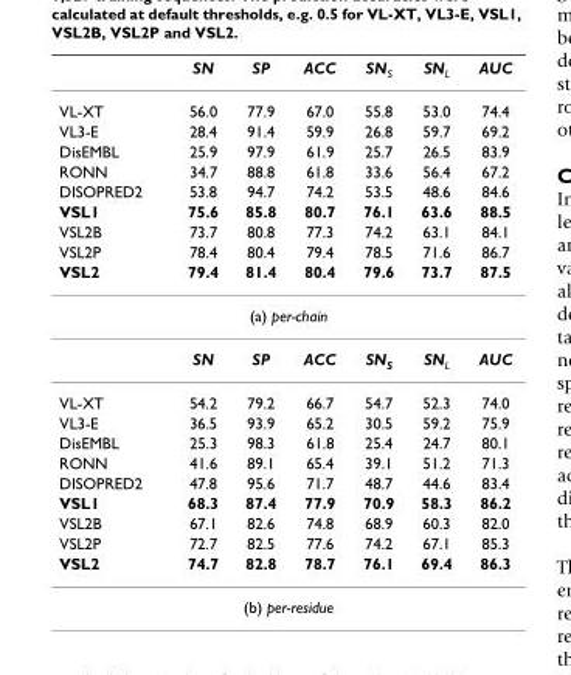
<table><thead><tr><td></td><td>SN</td><td>SP</td><td>ACC</td><td>SNS</td><td>SNL</td><td>AUC</td></tr></thead><tbody><tr><td>VL-XT</td><td>56.0</td><td>77.9</td><td>67.0</td><td>55.8</td><td>53.0</td><td>74.4</td></tr><tr><td>VL3-E</td><td>28.4</td><td>91.4</td><td>59.9</td><td>26.8</td><td>59.7</td><td>69.2</td></tr><tr><td>DisEMBL</td><td>25.9</td><td>97.9</td><td>61.9</td><td>25.7</td><td>26.5</td><td>83.9</td></tr><tr><td>RONN</td><td>34.7</td><td>88.8</td><td>61.8</td><td>33.6</td><td>56.4</td><td>67.2</td></tr><tr><td>DISOPRED2</td><td>53.8</td><td>94.7</td><td>74.2</td><td>53.5</td><td>48.6</td><td>84.6</td></tr><tr><td>VSL1</td><td>75.6</td><td>85.8</td><td>80.7</td><td>76.1</td><td>63.6</td><td>88.5</td></tr><tr><td>VSL2B</td><td>73.7</td><td>80.8</td><td>77.3</td><td>74.2</td><td>63.1</td><td>84.1</td></tr><tr><td>VSL2P</td><td>78.4</td><td>80.4</td><td>79.4</td><td>78.5</td><td>71.6</td><td>86.7</td></tr><tr><td>VSL2</td><td>79.4</td><td>81.4</td><td>80.4</td><td>79.6</td><td>73.7</td><td>87.5</td></tr><tr><td colspan="7">(a) per-chain</td></tr><tr><td></td><td>SN</td><td>SP</td><td>ACC</td><td>SNS</td><td>SNL</td><td>AUC</td></tr><tr><td>VL-XT</td><td>54.2</td><td>79.2</td><td>66.7</td><td>54.7</td><td>52.3</td><td>74.0</td></tr><tr><td>VL3-E</td><td>36.5</td><td>93.9</td><td>65.2</td><td>30.5</td><td>59.2</td><td>75.9</td></tr><tr><td>DisEMBL</td><td>25.3</td><td>98.3</td><td>61.8</td><td>25.4</td><td>24.7</td><td>80.1</td></tr><tr><td>RONN</td><td>41.6</td><td>89.1</td><td>65.4</td><td>39.1</td><td>51.2</td><td>71.3</td></tr><tr><td>DISOPRED2</td><td>47.8</td><td>95.6</td><td>71.7</td><td>48.7</td><td>44.6</td><td>83.4</td></tr><tr><td>VSL1</td><td>68.3</td><td>87.4</td><td>77.9</td><td>70.9</td><td>58.3</td><td>86.2</td></tr><tr><td>VSL2B</td><td>67.1</td><td>82.6</td><td>74.8</td><td>68.9</td><td>60.3</td><td>82.0</td></tr><tr><td>VSL2P</td><td>72.7</td><td>82.5</td><td>77.6</td><td>74.2</td><td>67.1</td><td>85.3</td></tr><tr><td>VSL2</td><td>74.7</td><td>82.8</td><td>78.7</td><td>76.1</td><td>69.4</td><td>86.3</td></tr><tr><td colspan="7">(b) per-residue</td></tr></tbody></table>